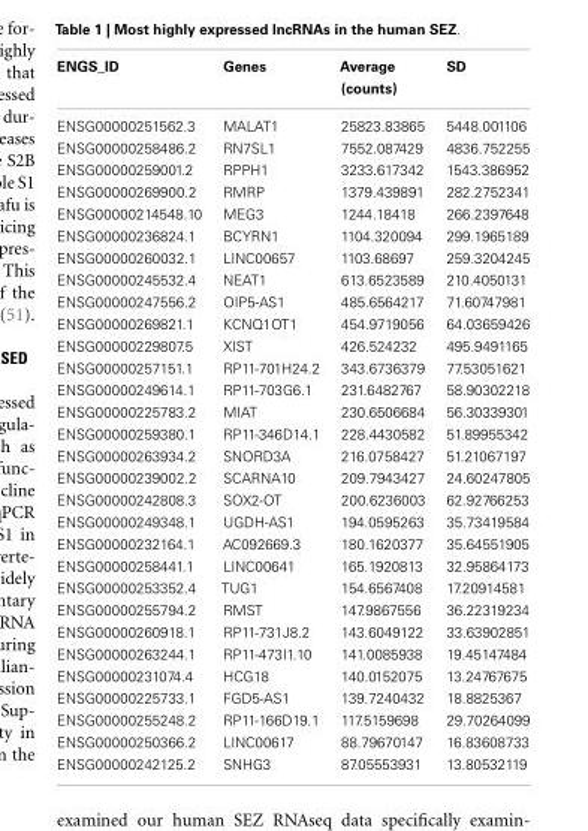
<table><thead><tr><td>ENGS_ID</td><td>Genes</td><td>Average (counts)</td><td>SD</td></tr></thead><tbody><tr><td>ENSG00000251562.3</td><td>MALAT1</td><td>25823.83865</td><td>5448.001106</td></tr><tr><td>ENSG00000258486.2</td><td>RN7SL1</td><td>7552.087429</td><td>4836.752255</td></tr><tr><td>ENSG00000259001.2</td><td>RPPH1</td><td>3233.617342</td><td>1543.386952</td></tr><tr><td>ENSG00000269900.2</td><td>RMRP</td><td>1379.439891</td><td>282.2752341</td></tr><tr><td>ENSG00000214548.10</td><td>MEG3</td><td>1244.18418</td><td>266.2397648</td></tr><tr><td>ENSG00000236824.1</td><td>BCYRN1</td><td>1104.320094</td><td>299.1965189</td></tr><tr><td>ENSG00000260032.1</td><td>LINC00657</td><td>1103.68697</td><td>259.3204245</td></tr><tr><td>ENSG00000245532.4</td><td>NEAT1</td><td>613.6523589</td><td>210.4050131</td></tr><tr><td>ENSG00000247556.2</td><td>OIP5-AS1</td><td>485.6564217</td><td>71.60747981</td></tr><tr><td>ENSG00000269821.1</td><td>KCNQ1OT1</td><td>454.9719056</td><td>64.03659426</td></tr><tr><td>ENSG00000229807.5</td><td>XIST</td><td>426.524232</td><td>495.9491165</td></tr><tr><td>ENSG00000257151.1</td><td>RP11-701H24.2</td><td>343.6736379</td><td>77.53051621</td></tr><tr><td>ENSG00000249614.1</td><td>RP11-703G6.1</td><td>231.6482767</td><td>58.90302218</td></tr><tr><td>ENSG00000225783.2</td><td>MIAT</td><td>230.6506684</td><td>56.30339301</td></tr><tr><td>ENSG00000259380.1</td><td>RP11-346D14.1</td><td>228.4430582</td><td>51.89955342</td></tr><tr><td>ENSG00000263934.2</td><td>SNORD3A</td><td>216.0758427</td><td>51.21067197</td></tr><tr><td>ENSG00000239002.2</td><td>SCARNA10</td><td>209.7943427</td><td>24.60247805</td></tr><tr><td>ENSG00000242808.3</td><td>SOX2-OT</td><td>200.6236003</td><td>62.92766253</td></tr><tr><td>ENSG00000249348.1</td><td>UGDH-AS1</td><td>194.0595263</td><td>35.73419584</td></tr><tr><td>ENSG00000232164.1</td><td>AC092669.3</td><td>180.1620377</td><td>35.64551905</td></tr><tr><td>ENSG00000258441.1</td><td>LINC00641</td><td>165.1920813</td><td>32.95864173</td></tr><tr><td>ENSG00000253352.4</td><td>TUG1</td><td>154.6567408</td><td>17.20914581</td></tr><tr><td>ENSG00000255794.2</td><td>RMST</td><td>147.9867556</td><td>36.22319234</td></tr><tr><td>ENSG00000260918.1</td><td>RP11-731J8.2</td><td>143.6049122</td><td>33.63902851</td></tr><tr><td>ENSG00000263244.1</td><td>RP11-473I1.10</td><td>141.0085938</td><td>19.45147484</td></tr><tr><td>ENSG00000231074.4</td><td>HCG18</td><td>140.0152075</td><td>13.24767675</td></tr><tr><td>ENSG00000225733.1</td><td>FGD5-AS1</td><td>139.7240432</td><td>18.8825367</td></tr><tr><td>ENSG00000255248.2</td><td>RP11-166D19.1</td><td>117.5159698</td><td>29.70264099</td></tr><tr><td>ENSG00000250366.2</td><td>LINC00617</td><td>88.79670147</td><td>16.83608733</td></tr><tr><td>ENSG00000242125.2</td><td>SNHG3</td><td>87.05553931</td><td>13.80532119</td></tr></tbody></table>